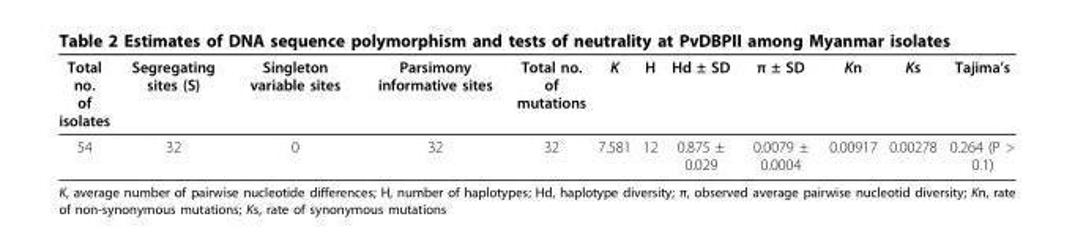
<table><thead><tr><td>Total no. of isolates</td><td>Segregating sites (S)</td><td>Singleton variable sites</td><td>Parsimony informative sites</td><td>Total no. of mutations</td><td>K</td><td>H</td><td>Hd ± SD</td><td>π ± SD</td><td>Kn</td><td>Ks</td><td>Tajima’s</td></tr></thead><tbody><tr><td>54</td><td>32</td><td>0</td><td>32</td><td>32</td><td>7.581</td><td>12</td><td>0.875 ± 0.029</td><td>0.0079 ± 0.0004</td><td>0.00917</td><td>0.00278</td><td>0.264 (P &gt; 0.1)</td></tr></tbody></table>